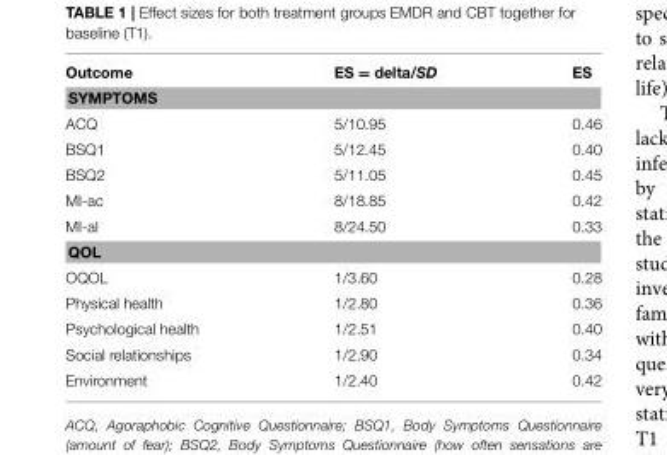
<table><thead><tr><td>Outcome</td><td>ES = delta/SD</td><td>ES</td></tr></thead><tbody><tr><td colspan="3">SYMPTOMS</td></tr><tr><td>ACQ</td><td>5/10.95</td><td>0.46</td></tr><tr><td>BSQ1</td><td>5/12.45</td><td>0.40</td></tr><tr><td>BSQ2</td><td>5/11.05</td><td>0.45</td></tr><tr><td>MI-ac</td><td>8/18.85</td><td>0.42</td></tr><tr><td>MI-al</td><td>8/24.50</td><td>0.33</td></tr><tr><td colspan="3">QOL</td></tr><tr><td>OQOL</td><td>1/3.60</td><td>0.28</td></tr><tr><td>Physical health</td><td>1/2.80</td><td>0.36</td></tr><tr><td>Psychological health</td><td>1/2.51</td><td>0.40</td></tr><tr><td>Social relationships</td><td>1/2.90</td><td>0.34</td></tr><tr><td>Environment</td><td>1/2.40</td><td>0.42</td></tr></tbody></table>